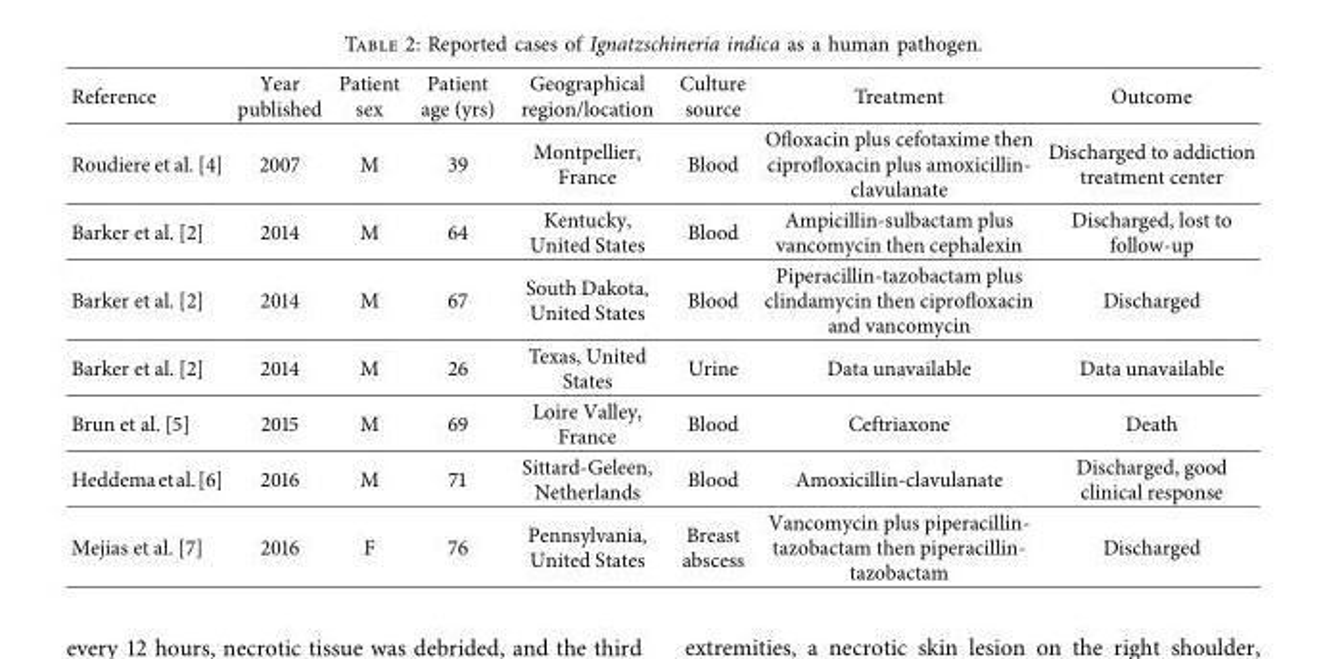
<table><thead><tr><td>Reference</td><td>Year published</td><td>Patient sex</td><td>Patient age (yrs)</td><td>Geographical region/location</td><td>Culture source</td><td>Treatment</td><td>Outcome</td></tr></thead><tbody><tr><td>Roudiere et al. [4]</td><td>2007</td><td>M</td><td>39</td><td>Montpellier, France</td><td>Blood</td><td>Ofoxacin plus cefotaxime then ciprofoxacin plus amoxicillin- clavulanate</td><td>Discharged to addiction treatment center</td></tr><tr><td>Barker et al. [2]</td><td>2014</td><td>M</td><td>64</td><td>Kentucky, United States</td><td>Blood</td><td>Ampicillin-sulbactam plus vancomycin then cephalexin</td><td>Discharged, lost to follow-up</td></tr><tr><td>Barker et al. [2]</td><td>2014</td><td>M</td><td>67</td><td>South Dakota, United States</td><td>Blood</td><td>Piperacillin-tazobactam plus clindamycin then ciprofoxacin and vancomycin</td><td>Discharged</td></tr><tr><td>Barker et al. [2]</td><td>2014</td><td>M</td><td>26</td><td>Texas, United States</td><td>Urine</td><td>Data unavailable</td><td>Data unavailable</td></tr><tr><td>Brun et al. [5]</td><td>2015</td><td>M</td><td>69</td><td>Loire Valley, France</td><td>Blood</td><td>Ceftriaxone</td><td>Death</td></tr><tr><td>Heddemaetal.[6]</td><td>2016</td><td>M</td><td>71</td><td>Sittard-Geleen, Netherlands</td><td>Blood</td><td>Amoxicillin-clavulanate</td><td>Discharged, good clinical response</td></tr><tr><td>Mejias et al. [7]</td><td>2016</td><td>F</td><td>76</td><td>Pennsylvania, United States</td><td>Breast abscess</td><td>Vancomycin plus piperacillin- tazobactam then piperacillin- tazobactam</td><td>Discharged</td></tr></tbody></table>